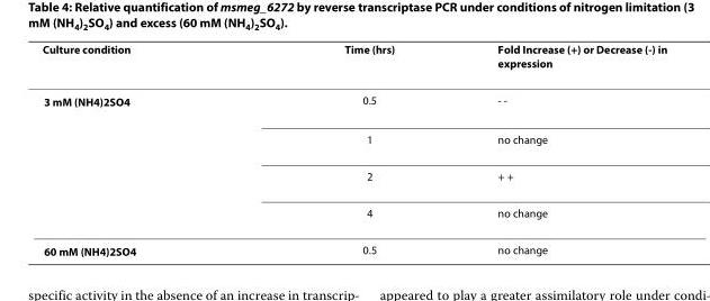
<table><thead><tr><td>Culture condition</td><td>Time (hrs)</td><td>Fold Increase (+) or Decrease (-) in expression</td></tr></thead><tbody><tr><td rowspan="4">3 mM (NH<sub>4</sub>)<sub>2</sub>SO<sub>4</sub></td><td>0.5</td><td>- -</td></tr><tr><td>1</td><td>no change</td></tr><tr><td>2</td><td>+ +</td></tr><tr><td>4</td><td>no change</td></tr><tr><td>60 mM (NH<sub>4</sub>)<sub>2</sub>SO<sub>4</sub></td><td>0.5</td><td>no change</td></tr></tbody></table>